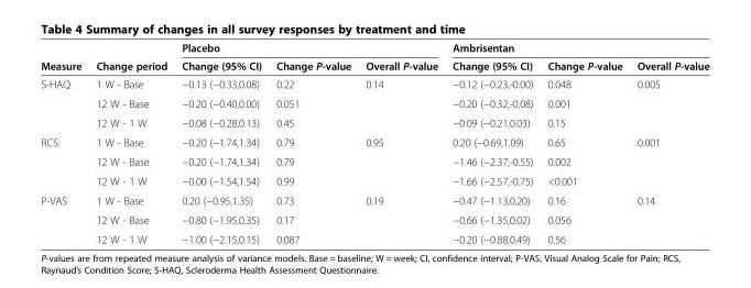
<table><thead><tr><td rowspan="2">Measure</td><td rowspan="2">Change period</td><td colspan="3">Placebo</td><td colspan="3">Ambrisentan</td></tr><tr><td>Change (95% CI)</td><td>Change P-value</td><td>Overall P-value</td><td>Change (95% CI)</td><td>Change P-value</td><td>Overall P-value</td></tr></thead><tbody><tr><td rowspan="3">S-HAQ</td><td>1 W - Base</td><td>−0.13 (−0.33,0.08)</td><td>0.22</td><td>0.14</td><td>−0.12 (−0.23,-0.00)</td><td>0.048</td><td>0.005</td></tr><tr><td>12 W - Base</td><td>−0.20 (−0.40,0.00)</td><td>0.051</td><td></td><td>−0.20 (−0.32,-0.08)</td><td>0.001</td><td></td></tr><tr><td>12 W - 1 W</td><td>−0.08 (−0.28,0.13)</td><td>0.45</td><td></td><td>−0.09 (−0.21,0.03)</td><td>0.15</td><td></td></tr><tr><td rowspan="3">RCS</td><td>1 W - Base</td><td>−0.20 (−1.74,1.34)</td><td>0.79</td><td>0.95</td><td>0.20 (−0.69,1.09)</td><td>0.65</td><td>0.001</td></tr><tr><td>12 W - Base</td><td>−0.20 (−1.74,1.34)</td><td>0.79</td><td></td><td>−1.46 (−2.37,-0.55)</td><td>0.002</td><td></td></tr><tr><td>12 W - 1 W</td><td>−0.00 (−1.54,1.54)</td><td>0.99</td><td></td><td>−1.66 (−2.57,-0.75)</td><td>&lt;0.001</td><td></td></tr><tr><td rowspan="3">P-VAS</td><td>1 W - Base</td><td>0.20 (−0.95,1.35)</td><td>0.73</td><td>0.19</td><td>−0.47 (−1.13,0.20)</td><td>0.16</td><td>0.14</td></tr><tr><td>12 W - Base</td><td>−0.80 (−1.95,0.35)</td><td>0.17</td><td></td><td>−0.66 (−1.35,0.02)</td><td>0.056</td><td></td></tr><tr><td>12 W - 1 W</td><td>−1.00 (−2.15,0.15)</td><td>0.087</td><td></td><td>−0.20 (−0.88,0.49)</td><td>0.56</td><td></td></tr></tbody></table>